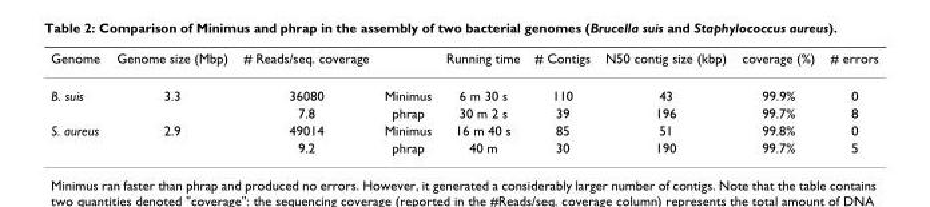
<table><thead><tr><td>Genome</td><td>Genome size (Mbp)</td><td># Reads/seq. coverage</td><td></td><td>Running time</td><td># Contigs</td><td>N50 contig size (kbp)</td><td>coverage (%)</td><td># errors</td></tr></thead><tbody><tr><td rowspan="2">B. suis</td><td>3.3</td><td>36080</td><td>Minimus</td><td>6 m 30 s</td><td>110</td><td>43</td><td>99.9%</td><td>0</td></tr><tr><td></td><td>7.8</td><td>phrap</td><td>30 m 2 s</td><td>39</td><td>196</td><td>99.7%</td><td>8</td></tr><tr><td rowspan="2">S. aureus</td><td>2.9</td><td>49014</td><td>Minimus</td><td>16 m 40 s</td><td>85</td><td>51</td><td>99.8%</td><td>0</td></tr><tr><td></td><td>9.2</td><td>phrap</td><td>40 m</td><td>30</td><td>190</td><td>99.7%</td><td>5</td></tr></tbody></table>